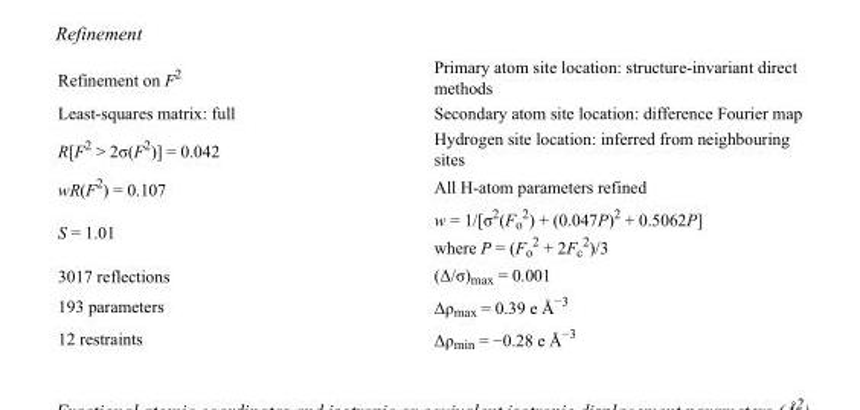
<table><tbody><tr><td>Refinement on F<sup>2</sup></td><td>Primary atom site location: structure-invariant direct methods</td></tr><tr><td>Least-squares matrix: full</td><td>Secondary atom site location: difference Fourier map</td></tr><tr><td>R[F<sup>2</sup> &gt; 2σ(F<sup>2</sup>)] = 0.042</td><td>Hydrogen site location: inferred from neighbouring sites</td></tr><tr><td>wR(F<sup>2</sup>) = 0.107</td><td>All H-atom parameters refined</td></tr><tr><td>S = 1.01</td><td>w = 1/[σ<sup>2</sup>(F<sub>o</sub> <sup>2</sup>) + (0.047P)<sup>2</sup> + 0.5062P] where P = (F<sub>o</sub> <sup>2</sup> + 2F<sub>c</sub> <sup>2</sup>)/3</td></tr><tr><td>3017 reflections</td><td>(Δ/σ)<sub>max</sub> = 0.001</td></tr><tr><td>193 parameters</td><td>Δρ<sub>max</sub> = 0.39 e Å<sup>−3</sup></td></tr><tr><td>12 restraints</td><td>Δρ<sub>min</sub> = −0.28 e Å<sup>−3</sup></td></tr></tbody></table>